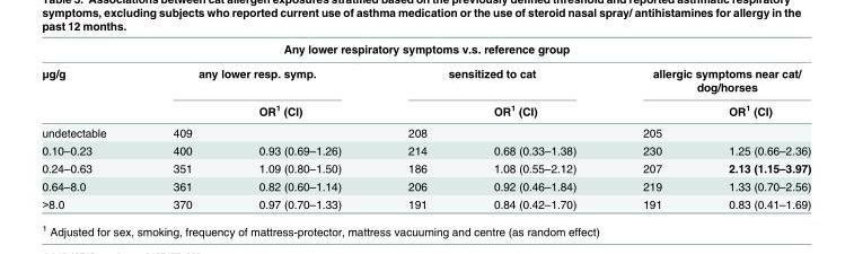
<table><thead><tr><td colspan="7">Any lower respiratory symptoms v.s. reference group</td></tr><tr><td rowspan="2">μg/g</td><td colspan="2">any lower resp. symp.</td><td colspan="2">sensitized to cat</td><td colspan="2">allergic symptoms near cat/ dog/horses</td></tr><tr><td></td><td>OR<sup>1</sup> (CI)</td><td></td><td>OR<sup>1</sup> (CI)</td><td></td><td>OR<sup>1</sup> (CI)</td></tr></thead><tbody><tr><td>undetectable</td><td>409</td><td></td><td>208</td><td></td><td>205</td><td></td></tr><tr><td>0.10–0.23</td><td>400</td><td>0.93 (0.69–1.26)</td><td>214</td><td>0.68 (0.33–1.38)</td><td>230</td><td>1.25 (0.66–2.36)</td></tr><tr><td>0.24–0.63</td><td>351</td><td>1.09 (0.80–1.50)</td><td>186</td><td>1.08 (0.55–2.12)</td><td>207</td><td>2.13 (1.15–3.97)</td></tr><tr><td>0.64–8.0</td><td>361</td><td>0.82 (0.60–1.14)</td><td>206</td><td>0.92 (0.46–1.84)</td><td>219</td><td>1.33 (0.70–2.56)</td></tr><tr><td>&gt;8.0</td><td>370</td><td>0.97 (0.70–1.33)</td><td>191</td><td>0.84 (0.42–1.70)</td><td>191</td><td>0.83 (0.41–1.69)</td></tr></tbody></table>